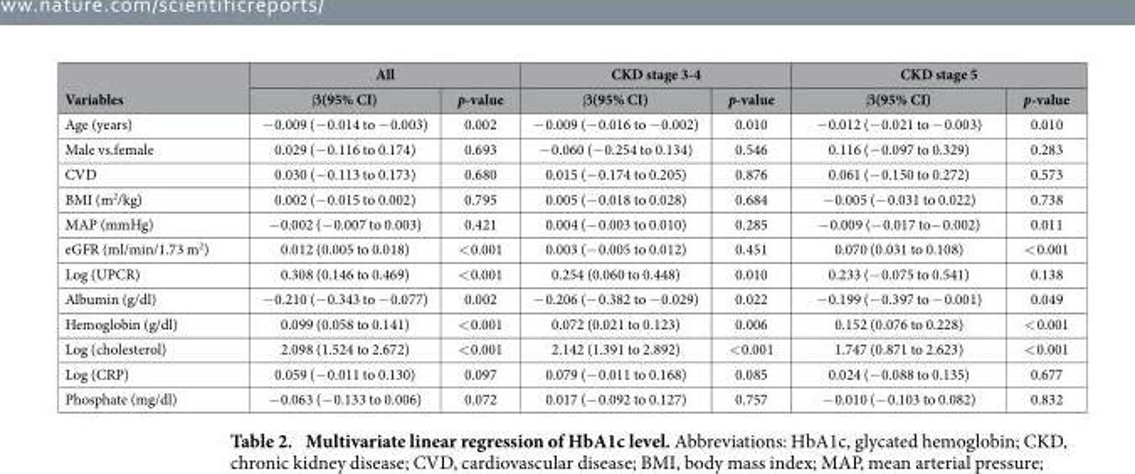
<table><thead><tr><td rowspan="2">Variables</td><td colspan="2">All</td><td colspan="2">CKD stage 3-4</td><td colspan="2">CKD stage 5</td></tr><tr><td>β(95% CI)</td><td>p-value</td><td>β(95% CI)</td><td>p-value</td><td>β(95% CI)</td><td>p-value</td></tr></thead><tbody><tr><td>Age (years)</td><td>− 0.009 (− 0.014 to − 0.003)</td><td>0.002</td><td>− 0.009 (− 0.016 to − 0.002)</td><td>0.010</td><td>− 0.012 (− 0.021 to − 0.003)</td><td>0.010</td></tr><tr><td>Male vs.female</td><td>0.029 (− 0.116 to 0.174)</td><td>0.693</td><td>− 0.060 (− 0.254 to 0.134)</td><td>0.546</td><td>0.116 (− 0.097 to 0.329)</td><td>0.283</td></tr><tr><td>CVD</td><td>0.030 (− 0.113 to 0.173)</td><td>0.680</td><td>0.015 (− 0.174 to 0.205)</td><td>0.876</td><td>0.061 (− 0.150 to 0.272)</td><td>0.573</td></tr><tr><td>BMI (m<sup>2</sup>/kg)</td><td>0.002 (− 0.015 to 0.002)</td><td>0.795</td><td>0.005 (− 0.018 to 0.028)</td><td>0.684</td><td>− 0.005 (− 0.031 to 0.022)</td><td>0.738</td></tr><tr><td>MAP (mmHg)</td><td>− 0.002 (− 0.007 to 0.003)</td><td>0.421</td><td>0.004 (− 0.003 to 0.010)</td><td>0.285</td><td>− 0.009 (− 0.017 to− 0.002)</td><td>0.011</td></tr><tr><td>eGFR (ml/min/1.73 m<sup>2</sup>)</td><td>0.012 (0.005 to 0.018)</td><td>&lt; 0.001</td><td>0.003 (− 0.005 to 0.012)</td><td>0.451</td><td>0.070 (0.031 to 0.108)</td><td>&lt; 0.001</td></tr><tr><td>Log (UPCR)</td><td>0.308 (0.146 to 0.469)</td><td>&lt; 0.001</td><td>0.254 (0.060 to 0.448)</td><td>0.010</td><td>0.233 (− 0.075 to 0.541)</td><td>0.138</td></tr><tr><td>Albumin (g/dl)</td><td>− 0.210 (− 0.343 to − 0.077)</td><td>0.002</td><td>− 0.206 (− 0.382 to − 0.029)</td><td>0.022</td><td>− 0.199 (− 0.397 to − 0.001)</td><td>0.049</td></tr><tr><td>Hemoglobin (g/dl)</td><td>0.099 (0.058 to 0.141)</td><td>&lt; 0.001</td><td>0.072 (0.021 to 0.123)</td><td>0.006</td><td>0.152 (0.076 to 0.228)</td><td>&lt; 0.001</td></tr><tr><td>Log (cholesterol)</td><td>2.098 (1.524 to 2.672)</td><td>&lt; 0.001</td><td>2.142 (1.391 to 2.892)</td><td>&lt; 0.001</td><td>1.747 (0.871 to 2.623)</td><td>&lt; 0.001</td></tr><tr><td>Log (CRP)</td><td>0.059 (− 0.011 to 0.130)</td><td>0.097</td><td>0.079 (− 0.011 to 0.168)</td><td>0.085</td><td>0.024 (− 0.088 to 0.135)</td><td>0.677</td></tr><tr><td>Phosphate (mg/dl)</td><td>− 0.063 (− 0.133 to 0.006)</td><td>0.072</td><td>0.017 (− 0.092 to 0.127)</td><td>0.757</td><td>− 0.010 (− 0.103 to 0.082)</td><td>0.832</td></tr></tbody></table>